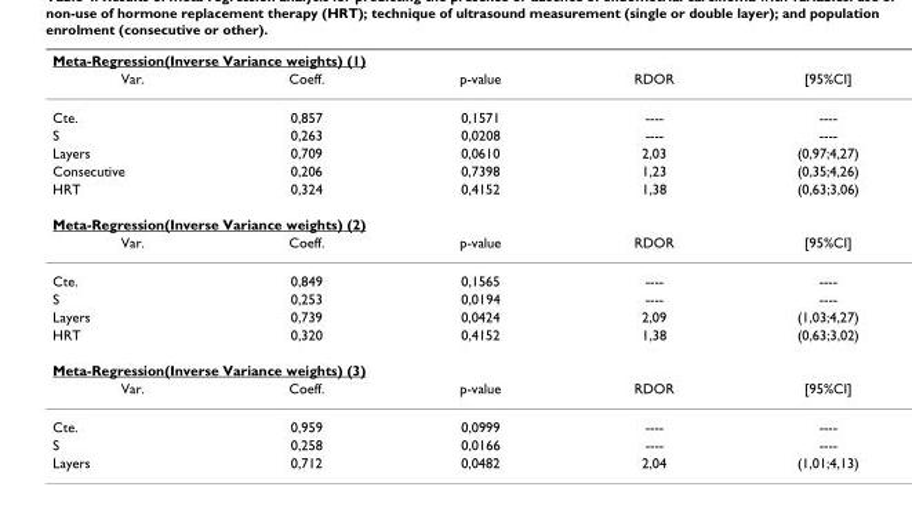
<table><thead><tr><td colspan="5">Meta-Regression(Inverse Variance weights) (1)</td></tr><tr><td>Var.</td><td>Coeff.</td><td>p-value</td><td>RDOR</td><td>[95%CI]</td></tr></thead><tbody><tr><td>Cte.</td><td>0,857</td><td>0,1571</td><td>----</td><td>----</td></tr><tr><td>S</td><td>0,263</td><td>0,0208</td><td>----</td><td>----</td></tr><tr><td>Layers</td><td>0,709</td><td>0,0610</td><td>2,03</td><td>(0,97;4,27)</td></tr><tr><td>Consecutive</td><td>0,206</td><td>0,7398</td><td>1,23</td><td>(0,35;4,26)</td></tr><tr><td>HRT</td><td>0,324</td><td>0,4152</td><td>1,38</td><td>(0,63;3,06)</td></tr><tr><td colspan="5">Meta-Regression(Inverse Variance weights) (2)</td></tr><tr><td>Var.</td><td>Coeff.</td><td>p-value</td><td>RDOR</td><td>[95%CI]</td></tr><tr><td>Cte.</td><td>0,849</td><td>0,1565</td><td>----</td><td>----</td></tr><tr><td>S</td><td>0,253</td><td>0,0194</td><td>----</td><td>----</td></tr><tr><td>Layers</td><td>0,739</td><td>0,0424</td><td>2,09</td><td>(1,03;4,27)</td></tr><tr><td>HRT</td><td>0,320</td><td>0,4152</td><td>1,38</td><td>(0,63;3,02)</td></tr><tr><td colspan="5">Meta-Regression(Inverse Variance weights) (3)</td></tr><tr><td>Var.</td><td>Coeff.</td><td>p-value</td><td>RDOR</td><td>[95%CI]</td></tr><tr><td>Cte.</td><td>0,959</td><td>0,0999</td><td>----</td><td>----</td></tr><tr><td>S</td><td>0,258</td><td>0,0166</td><td>----</td><td>----</td></tr><tr><td>Layers</td><td>0,712</td><td>0,0482</td><td>2,04</td><td>(1,01;4,13)</td></tr></tbody></table>